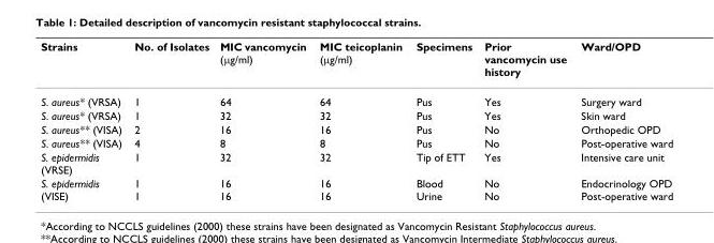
<table><thead><tr><td>Strains</td><td>No. of Isolates</td><td>MIC vancomycin (µg/ml)</td><td>MIC teicoplanin (µg/ml)</td><td>Specimens</td><td>Prior vancomycin use history</td><td>Ward/OPD</td></tr></thead><tbody><tr><td>S. aureus* (VRSA)</td><td>1</td><td>64</td><td>64</td><td>Pus</td><td>Yes</td><td>Surgery ward</td></tr><tr><td>S. aureus* (VRSA)</td><td>1</td><td>32</td><td>32</td><td>Pus</td><td>Yes</td><td>Skin ward</td></tr><tr><td>S. aureus** (VISA)</td><td>2</td><td>16</td><td>16</td><td>Pus</td><td>No</td><td>Orthopedic OPD</td></tr><tr><td>S. aureus** (VISA)</td><td>4</td><td>8</td><td>8</td><td>Pus</td><td>No</td><td>Post-operative ward</td></tr><tr><td>S. epidermidis (VRSE)</td><td>1</td><td>32</td><td>32</td><td>Tip of ETT</td><td>Yes</td><td>Intensive care unit</td></tr><tr><td>S. epidermidis (VISE)</td><td>1 1</td><td>16 16</td><td>16 16</td><td>Blood Urine</td><td>No No</td><td>Endocrinology OPD Post-operative ward</td></tr></tbody></table>